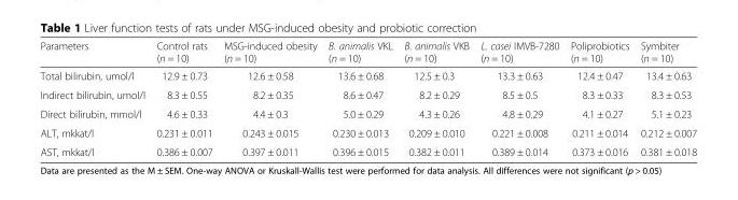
<table><thead><tr><td>Parameters</td><td>Control rats (n = 10)</td><td>MSG-induced obesity (n = 10)</td><td>B. animalis VKL (n = 10)</td><td>B. animalis VKB (n = 10)</td><td>L. casei IMVB-7280 (n = 10)</td><td>Poliprobiotics (n = 10)</td><td>Symbiter (n = 10)</td></tr></thead><tbody><tr><td>Total bilirubin, umol/l</td><td>12.9 ± 0.73</td><td>12.6 ± 0.58</td><td>13.6 ± 0.68</td><td>12.5 ± 0.3</td><td>13.3 ± 0.63</td><td>12.4 ± 0.47</td><td>13.4 ± 0.63</td></tr><tr><td>Indirect bilirubin, umol/l</td><td>8.3 ± 0.55</td><td>8.2 ± 0.35</td><td>8.6 ± 0.47</td><td>8.2 ± 0.29</td><td>8.5 ± 0.5</td><td>8.3 ± 0.33</td><td>8.3 ± 0.53</td></tr><tr><td>Direct bilirubin, mmol/l</td><td>4.6 ± 0.33</td><td>4.4 ± 0.3</td><td>5.0 ± 0.29</td><td>4.3 ± 0.26</td><td>4.8 ± 0.29</td><td>4.1 ± 0.27</td><td>5.1 ± 0.23</td></tr><tr><td>ALT, mkkat/l</td><td>0.231 ± 0.011</td><td>0.243 ± 0.015</td><td>0.230 ± 0.013</td><td>0.209 ± 0.010</td><td>0.221 ± 0.008</td><td>0.211 ± 0.014</td><td>0.212 ± 0.007</td></tr><tr><td>AST, mkkat/l</td><td>0.386 ± 0.007</td><td>0.397 ± 0.011</td><td>0.396 ± 0.015</td><td>0.382 ± 0.011</td><td>0.389 ± 0.014</td><td>0.373 ± 0.016</td><td>0.381 ± 0.018</td></tr></tbody></table>